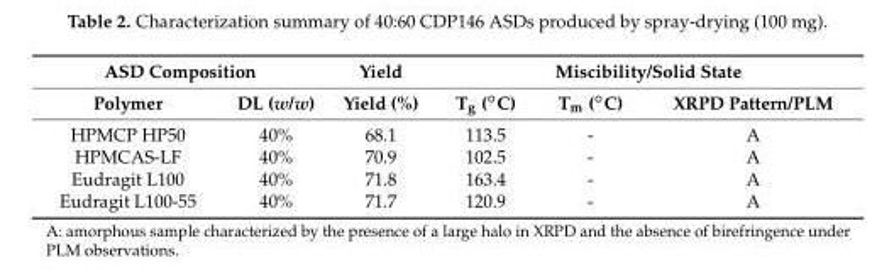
<table><thead><tr><td colspan="2">ASD Composition</td><td rowspan="2">Yield Yield (%)</td><td colspan="3">Miscibility/Solid State</td></tr><tr><td>Polymer</td><td>DL (w/w)</td><td>Tg (◦C)</td><td>Tm (◦C)</td><td>XRPD Pattern/PLM</td></tr></thead><tbody><tr><td>HPMCP HP50</td><td>40%</td><td>68.1</td><td>113.5</td><td>-</td><td>A</td></tr><tr><td>HPMCAS-LF</td><td>40%</td><td>70.9</td><td>102.5</td><td>-</td><td>A</td></tr><tr><td>Eudragit L100</td><td>40%</td><td>71.8</td><td>163.4</td><td>-</td><td>A</td></tr><tr><td>Eudragit L100-55</td><td>40%</td><td>71.7</td><td>120.9</td><td>-</td><td>A</td></tr></tbody></table>